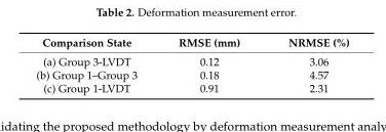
<table><thead><tr><td>Comparison State</td><td>RMSE (mm)</td><td>NRMSE (%)</td></tr></thead><tbody><tr><td>(a) Group 3-LVDT</td><td>0.12</td><td>3.06</td></tr><tr><td>(b) Group 1–Group 3</td><td>0.18</td><td>4.57</td></tr><tr><td>(c) Group 1-LVDT</td><td>0.91</td><td>2.31</td></tr></tbody></table>